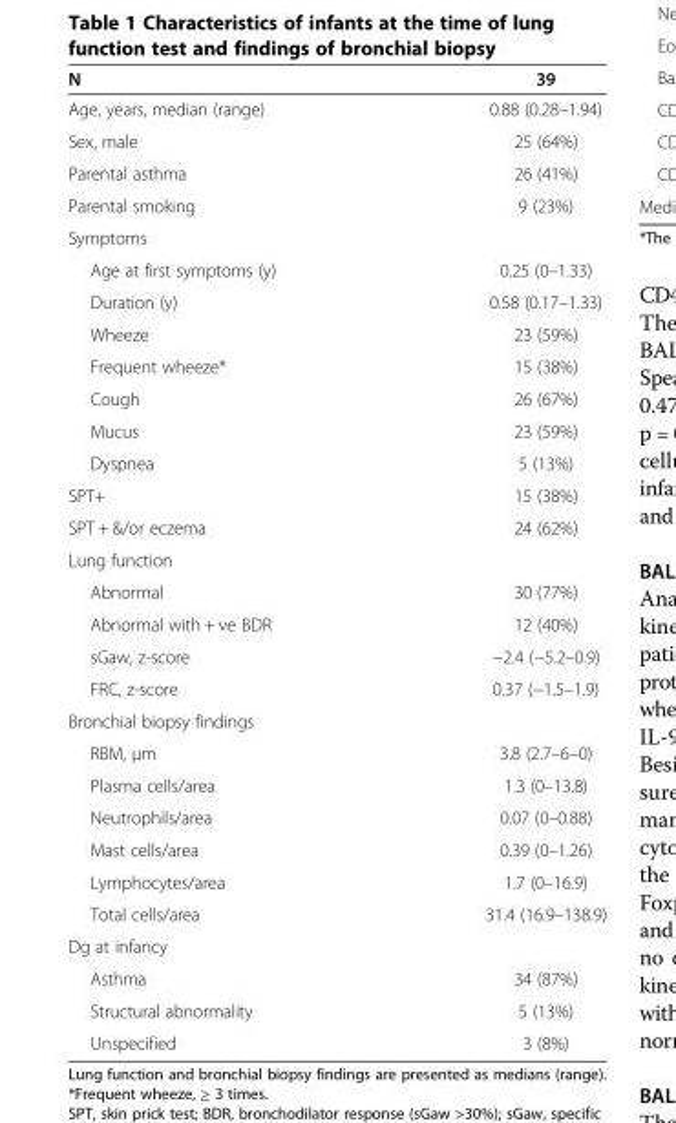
<table><thead><tr><td>N</td><td>39</td></tr></thead><tbody><tr><td>Age, years, median (range)</td><td>0.88 (0.28–1.94)</td></tr><tr><td>Sex, male</td><td>25 (64%)</td></tr><tr><td>Parental asthma</td><td>26 (41%)</td></tr><tr><td>Parental smoking</td><td>9 (23%)</td></tr><tr><td colspan="2">Symptoms</td></tr><tr><td>Age at first symptoms (y)</td><td>0.25 (0–1.33)</td></tr><tr><td>Duration (y)</td><td>0.58 (0.17–1.33)</td></tr><tr><td>Wheeze</td><td>23 (59%)</td></tr><tr><td>Frequent wheeze*</td><td>15 (38%)</td></tr><tr><td>Cough</td><td>26 (67%)</td></tr><tr><td>Mucus</td><td>23 (59%)</td></tr><tr><td>Dyspnea</td><td>5 (13%)</td></tr><tr><td>SPT+</td><td>15 (38%)</td></tr><tr><td>SPT + &amp;/or eczema</td><td>24 (62%)</td></tr><tr><td colspan="2">Lung function</td></tr><tr><td>Abnormal</td><td>30 (77%)</td></tr><tr><td>Abnormal with + ve BDR</td><td>12 (40%)</td></tr><tr><td>sGaw, z-score</td><td>−2.4 (−5.2–0.9)</td></tr><tr><td>FRC, z-score</td><td>0.37 (−1.5–1.9)</td></tr><tr><td colspan="2">Bronchial biopsy findings</td></tr><tr><td>RBM, μm</td><td>3.8 (2.7–6–0)</td></tr><tr><td>Plasma cells/area</td><td>1.3 (0–13.8)</td></tr><tr><td>Neutrophils/area</td><td>0.07 (0–0.88)</td></tr><tr><td>Mast cells/area</td><td>0.39 (0–1.26)</td></tr><tr><td>Lymphocytes/area</td><td>1.7 (0–16.9)</td></tr><tr><td>Total cells/area</td><td>31.4 (16.9–138.9)</td></tr><tr><td colspan="2">Dg at infancy</td></tr><tr><td>Asthma</td><td>34 (87%)</td></tr><tr><td>Structural abnormality</td><td>5 (13%)</td></tr><tr><td>Unspecified</td><td>3 (8%)</td></tr></tbody></table>